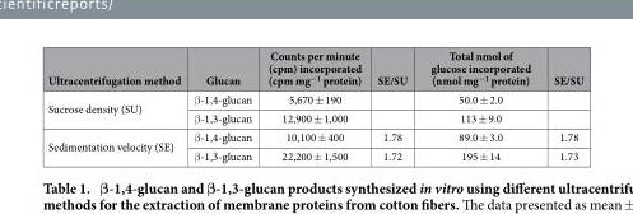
<table><thead><tr><td>Ultracentrifugation method</td><td>Glucan</td><td>Counts per minute (cpm) incorporated (cpm mg<sup>−1</sup> protein)</td><td>SE/SU</td><td>Total nmol of glucose incorporated (nmol mg<sup>−1</sup> protein)</td><td>SE/SU</td></tr></thead><tbody><tr><td rowspan="2">Sucrose density (SU)</td><td>β -1,4-glucan</td><td>5,670 ± 190</td><td></td><td>50.0 ± 2.0</td><td></td></tr><tr><td>β -1,3-glucan</td><td>12,900 ± 1,000</td><td></td><td>113 ± 9.0</td><td></td></tr><tr><td rowspan="2">Sedimentation velocity (SE)</td><td>β -1,4-glucan</td><td>10,100 ± 400</td><td>1.78</td><td>89.0 ± 3.0</td><td>1.78</td></tr><tr><td>β -1,3-glucan</td><td>22,200 ± 1,500</td><td>1.72</td><td>195 ± 14</td><td>1.73</td></tr></tbody></table>